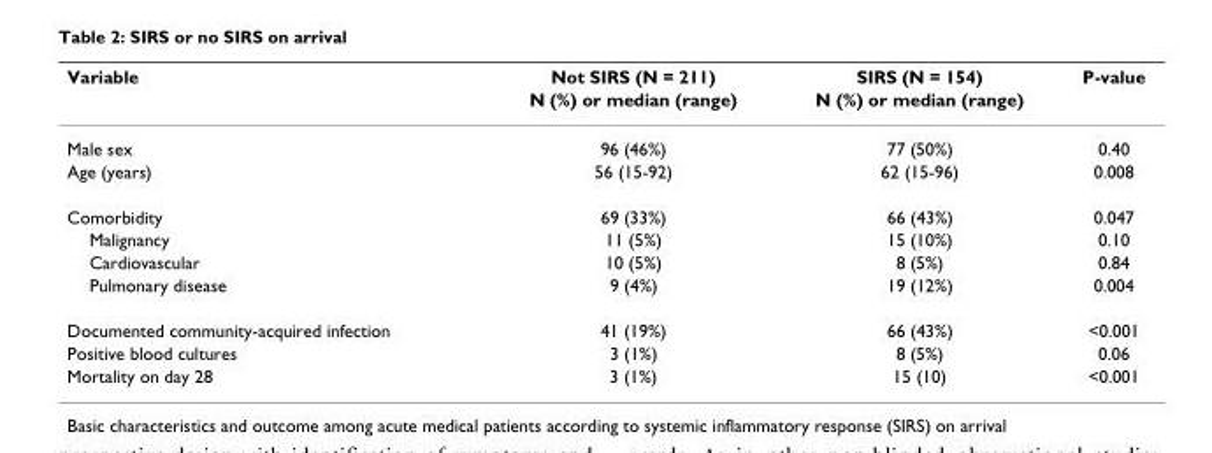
<table><thead><tr><td rowspan="2">Variable</td><td rowspan="2">Not SIRS (N = 211) N (%) or median (range)</td><td rowspan="2">SIRS (N = 154) N (%) or median (range)</td><td rowspan="2">P-value</td></tr><tr></tr></thead><tbody><tr><td>Male sex</td><td>96 (46%)</td><td>77 (50%)</td><td>0.40</td></tr><tr><td>Age (years)</td><td>56 (15-92)</td><td>62 (15-96)</td><td>0.008</td></tr><tr><td>Comorbidity</td><td>69 (33%)</td><td>66 (43%)</td><td>0.047</td></tr><tr><td>Malignancy</td><td>11 (5%)</td><td>15 (10%)</td><td>0.10</td></tr><tr><td>Cardiovascular</td><td>10 (5%)</td><td>8 (5%)</td><td>0.84</td></tr><tr><td>Pulmonary disease</td><td>9 (4%)</td><td>19 (12%)</td><td>0.004</td></tr><tr><td>Documented community-acquired infection</td><td>41 (19%)</td><td>66 (43%)</td><td>&lt;0.001</td></tr><tr><td>Positive blood cultures</td><td>3 (1%)</td><td>8 (5%)</td><td>0.06</td></tr><tr><td>Mortality on day 28</td><td>3 (1%)</td><td>15 (10)</td><td>&lt;0.001</td></tr></tbody></table>